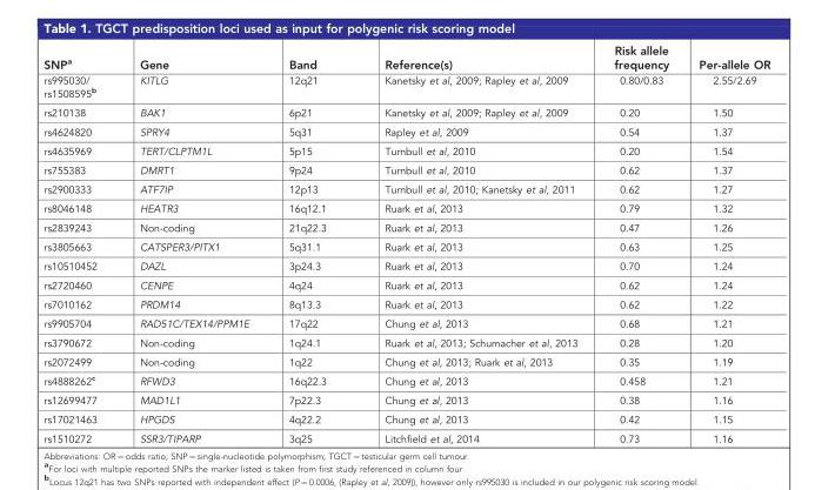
<table><thead><tr><td>SNP<sup>a</sup></td><td>Gene</td><td>Band</td><td>Reference(s)</td><td>Risk allele frequency</td><td>Per-allele OR</td></tr></thead><tbody><tr><td>rs995030/ rs1508595<sup>b</sup></td><td>KITLG</td><td>12q21</td><td>Kanetsky et al, 2009; Rapley et al, 2009</td><td>0.80/0.83</td><td>2.55/2.69</td></tr><tr><td>rs210138</td><td>BAK1</td><td>6p21</td><td>Kanetsky et al, 2009; Rapley et al, 2009</td><td>0.20</td><td>1.50</td></tr><tr><td>rs4624820</td><td>SPRY4</td><td>5q31</td><td>Rapley et al, 2009</td><td>0.54</td><td>1.37</td></tr><tr><td>rs4635969</td><td>TERT/CLPTM1L</td><td>5p15</td><td>Turnbull et al, 2010</td><td>0.20</td><td>1.54</td></tr><tr><td>rs755383</td><td>DMRT1</td><td>9p24</td><td>Turnbull et al, 2010</td><td>0.62</td><td>1.37</td></tr><tr><td>rs2900333</td><td>ATF7IP</td><td>12p13</td><td>Turnbull et al, 2010; Kanetsky et al, 2011</td><td>0.62</td><td>1.27</td></tr><tr><td>rs8046148</td><td>HEATR3</td><td>16q12.1</td><td>Ruark et al, 2013</td><td>0.79</td><td>1.32</td></tr><tr><td>rs2839243</td><td>Non-coding</td><td>21q22.3</td><td>Ruark et al, 2013</td><td>0.47</td><td>1.26</td></tr><tr><td>rs3805663</td><td>CATSPER3/PITX1</td><td>5q31.1</td><td>Ruark et al, 2013</td><td>0.63</td><td>1.25</td></tr><tr><td>rs10510452</td><td>DAZL</td><td>3p24.3</td><td>Ruark et al, 2013</td><td>0.70</td><td>1.24</td></tr><tr><td>rs2720460</td><td>CENPE</td><td>4q24</td><td>Ruark et al, 2013</td><td>0.62</td><td>1.24</td></tr><tr><td>rs7010162</td><td>PRDM14</td><td>8q13.3</td><td>Ruark et al, 2013</td><td>0.62</td><td>1.22</td></tr><tr><td>rs9905704</td><td>RAD51C/TEX14/PPM1E</td><td>17q22</td><td>Chung et al, 2013</td><td>0.68</td><td>1.21</td></tr><tr><td>rs3790672</td><td>Non-coding</td><td>1q24.1</td><td>Ruark et al, 2013; Schumacher et al, 2013</td><td>0.28</td><td>1.20</td></tr><tr><td>rs2072499</td><td>Non-coding</td><td>1q22</td><td>Chung et al, 2013; Ruark et al, 2013</td><td>0.35</td><td>1.19</td></tr><tr><td>rs4888262<sup>c</sup></td><td>RFWD3</td><td>16q22.3</td><td>Chung et al, 2013</td><td>0.458</td><td>1.21</td></tr><tr><td>rs12699477</td><td>MAD1L1</td><td>7p22.3</td><td>Chung et al, 2013</td><td>0.38</td><td>1.16</td></tr><tr><td>rs17021463</td><td>HPGDS</td><td>4q22.2</td><td>Chung et al, 2013</td><td>0.42</td><td>1.15</td></tr><tr><td>rs1510272</td><td>SSR3/TIPARP</td><td>3q25</td><td>Litchfield et al, 2014</td><td>0.73</td><td>1.16</td></tr></tbody></table>